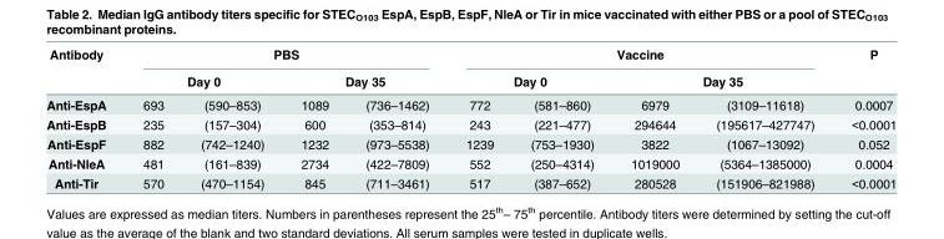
<table><thead><tr><td rowspan="3">Antibody Anti-EspA</td><td colspan="4">PBS</td><td colspan="4">Vaccine</td><td rowspan="3">P 0.0007</td></tr><tr><td colspan="2">Day 0</td><td colspan="2">Day 35</td><td colspan="2">Day 0</td><td colspan="2">Day 35</td></tr><tr><td>693</td><td>(590–853)</td><td>1089</td><td>(736–1462)</td><td>772</td><td>(581–860)</td><td>6979</td><td>(3109–11618)</td></tr></thead><tbody><tr><td>Anti-EspB</td><td>235</td><td>(157–304)</td><td>600</td><td>(353–814)</td><td>243</td><td>(221–477)</td><td>294644</td><td>(195617–427747)</td><td>&lt;0.0001</td></tr><tr><td>Anti-EspF</td><td>882</td><td>(742–1240)</td><td>1232</td><td>(973–5538)</td><td>1239</td><td>(753–1930)</td><td>3822</td><td>(1067–13092)</td><td>0.052</td></tr><tr><td>Anti-NleA</td><td>481</td><td>(161–839)</td><td>2734</td><td>(422–7809)</td><td>552</td><td>(250–4314)</td><td>1019000</td><td>(5364–1385000)</td><td>0.0004</td></tr><tr><td>Anti-Tir</td><td>570</td><td>(470–1154)</td><td>845</td><td>(711–3461)</td><td>517</td><td>(387–652)</td><td>280528</td><td>(151906–821988)</td><td>&lt;0.0001</td></tr></tbody></table>